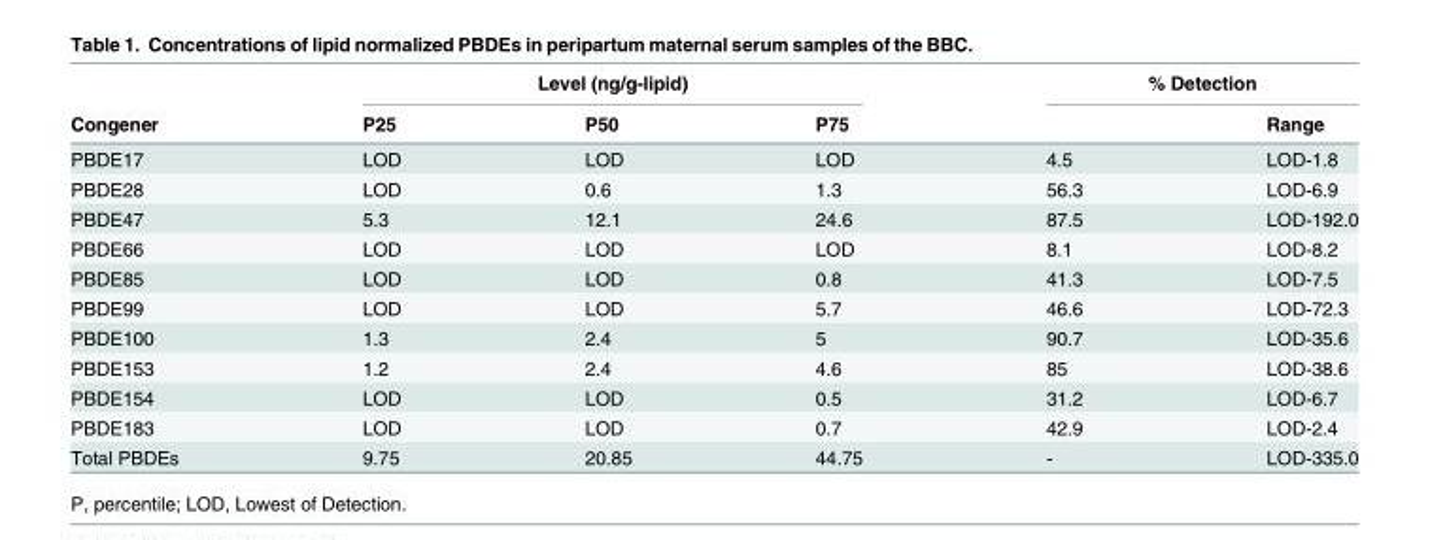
<table><thead><tr><td rowspan="2">Congener</td><td colspan="3">Level (ng/g-lipid)</td><td colspan="2">% Detection</td></tr><tr><td>P25</td><td>P50</td><td>P75</td><td></td><td>Range</td></tr></thead><tbody><tr><td>PBDE17</td><td>LOD</td><td>LOD</td><td>LOD</td><td>4.5</td><td>LOD-1.8</td></tr><tr><td>PBDE28</td><td>LOD</td><td>0.6</td><td>1.3</td><td>56.3</td><td>LOD-6.9</td></tr><tr><td>PBDE47</td><td>5.3</td><td>12.1</td><td>24.6</td><td>87.5</td><td>LOD-192.0</td></tr><tr><td>PBDE66</td><td>LOD</td><td>LOD</td><td>LOD</td><td>8.1</td><td>LOD-8.2</td></tr><tr><td>PBDE85</td><td>LOD</td><td>LOD</td><td>0.8</td><td>41.3</td><td>LOD-7.5</td></tr><tr><td>PBDE99</td><td>LOD</td><td>LOD</td><td>5.7</td><td>46.6</td><td>LOD-72.3</td></tr><tr><td>PBDE100</td><td>1.3</td><td>2.4</td><td>5</td><td>90.7</td><td>LOD-35.6</td></tr><tr><td>PBDE153</td><td>1.2</td><td>2.4</td><td>4.6</td><td>85</td><td>LOD-38.6</td></tr><tr><td>PBDE154</td><td>LOD</td><td>LOD</td><td>0.5</td><td>31.2</td><td>LOD-6.7</td></tr><tr><td>PBDE183</td><td>LOD</td><td>LOD</td><td>0.7</td><td>42.9</td><td>LOD-2.4</td></tr><tr><td>Total PBDEs</td><td>9.75</td><td>20.85</td><td>44.75</td><td>-</td><td>LOD-335.0</td></tr></tbody></table>